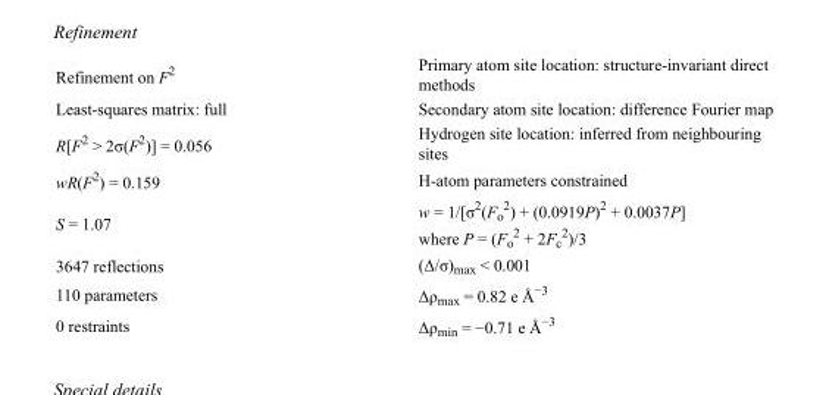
<table><tbody><tr><td>Refinement on F<sup>2</sup></td><td>Primary atom site location: structure-invariant direct methods</td></tr><tr><td>Least-squares matrix: full</td><td>Secondary atom site location: difference Fourier map</td></tr><tr><td>R[F<sup>2</sup> &gt; 2σ(F<sup>2</sup>)] = 0.056</td><td>Hydrogen site location: inferred from neighbouring sites</td></tr><tr><td>wR(F<sup>2</sup>) = 0.159</td><td>H-atom parameters constrained</td></tr><tr><td>S = 1.07</td><td>w = 1/[σ<sup>2</sup>(F<sub>o</sub> <sup>2</sup>) + (0.0919P)<sup>2</sup> + 0.0037P] where P = (F<sub>o</sub> <sup>2</sup> + 2F<sub>c</sub> <sup>2</sup>)/3</td></tr><tr><td>3647 reflections</td><td>(Δ/σ)<sub>max</sub> &lt; 0.001</td></tr><tr><td>110 parameters</td><td>Δρ<sub>max</sub> = 0.82 e Å<sup>−3</sup></td></tr><tr><td>0 restraints</td><td>Δρ<sub>min</sub> = −0.71 e Å<sup>−3</sup></td></tr></tbody></table>